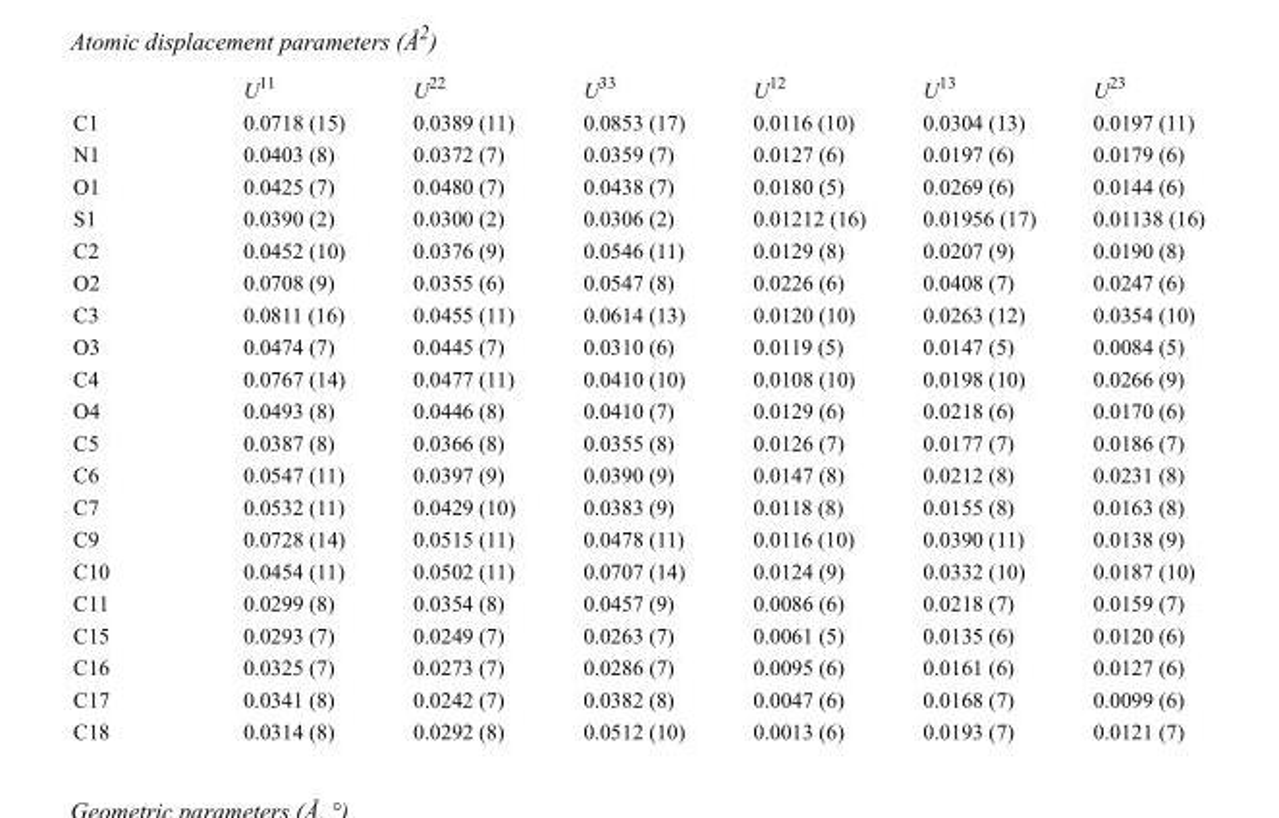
<table><thead><tr><td></td><td>U<sup>11</sup></td><td>U<sup>22</sup></td><td>U<sup>33</sup></td><td>U<sup>12</sup></td><td>U<sup>13</sup></td><td>U<sup>23</sup></td></tr></thead><tbody><tr><td>C1</td><td>0.0718 (15)</td><td>0.0389 (11)</td><td>0.0853 (17)</td><td>0.0116 (10)</td><td>0.0304 (13)</td><td>0.0197 (11)</td></tr><tr><td>N1</td><td>0.0403 (8)</td><td>0.0372 (7)</td><td>0.0359 (7)</td><td>0.0127 (6)</td><td>0.0197 (6)</td><td>0.0179 (6)</td></tr><tr><td>O1</td><td>0.0425 (7)</td><td>0.0480 (7)</td><td>0.0438 (7)</td><td>0.0180 (5)</td><td>0.0269 (6)</td><td>0.0144 (6)</td></tr><tr><td>S1</td><td>0.0390 (2)</td><td>0.0300 (2)</td><td>0.0306 (2)</td><td>0.01212 (16)</td><td>0.01956 (17)</td><td>0.01138 (16)</td></tr><tr><td>C2</td><td>0.0452 (10)</td><td>0.0376 (9)</td><td>0.0546 (11)</td><td>0.0129 (8)</td><td>0.0207 (9)</td><td>0.0190 (8)</td></tr><tr><td>O2</td><td>0.0708 (9)</td><td>0.0355 (6)</td><td>0.0547 (8)</td><td>0.0226 (6)</td><td>0.0408 (7)</td><td>0.0247 (6)</td></tr><tr><td>C3</td><td>0.0811 (16)</td><td>0.0455 (11)</td><td>0.0614 (13)</td><td>0.0120 (10)</td><td>0.0263 (12)</td><td>0.0354 (10)</td></tr><tr><td>O3</td><td>0.0474 (7)</td><td>0.0445 (7)</td><td>0.0310 (6)</td><td>0.0119 (5)</td><td>0.0147 (5)</td><td>0.0084 (5)</td></tr><tr><td>C4</td><td>0.0767 (14)</td><td>0.0477 (11)</td><td>0.0410 (10)</td><td>0.0108 (10)</td><td>0.0198 (10)</td><td>0.0266 (9)</td></tr><tr><td>O4</td><td>0.0493 (8)</td><td>0.0446 (8)</td><td>0.0410 (7)</td><td>0.0129 (6)</td><td>0.0218 (6)</td><td>0.0170 (6)</td></tr><tr><td>C5</td><td>0.0387 (8)</td><td>0.0366 (8)</td><td>0.0355 (8)</td><td>0.0126 (7)</td><td>0.0177 (7)</td><td>0.0186 (7)</td></tr><tr><td>C6</td><td>0.0547 (11)</td><td>0.0397 (9)</td><td>0.0390 (9)</td><td>0.0147 (8)</td><td>0.0212 (8)</td><td>0.0231 (8)</td></tr><tr><td>C7</td><td>0.0532 (11)</td><td>0.0429 (10)</td><td>0.0383 (9)</td><td>0.0118 (8)</td><td>0.0155 (8)</td><td>0.0163 (8)</td></tr><tr><td>C9</td><td>0.0728 (14)</td><td>0.0515 (11)</td><td>0.0478 (11)</td><td>0.0116 (10)</td><td>0.0390 (11)</td><td>0.0138 (9)</td></tr><tr><td>C10</td><td>0.0454 (11)</td><td>0.0502 (11)</td><td>0.0707 (14)</td><td>0.0124 (9)</td><td>0.0332 (10)</td><td>0.0187 (10)</td></tr><tr><td>C11</td><td>0.0299 (8)</td><td>0.0354 (8)</td><td>0.0457 (9)</td><td>0.0086 (6)</td><td>0.0218 (7)</td><td>0.0159 (7)</td></tr><tr><td>C15</td><td>0.0293 (7)</td><td>0.0249 (7)</td><td>0.0263 (7)</td><td>0.0061 (5)</td><td>0.0135 (6)</td><td>0.0120 (6)</td></tr><tr><td>C16</td><td>0.0325 (7)</td><td>0.0273 (7)</td><td>0.0286 (7)</td><td>0.0095 (6)</td><td>0.0161 (6)</td><td>0.0127 (6)</td></tr><tr><td>C17</td><td>0.0341 (8)</td><td>0.0242 (7)</td><td>0.0382 (8)</td><td>0.0047 (6)</td><td>0.0168 (7)</td><td>0.0099 (6)</td></tr><tr><td>C18</td><td>0.0314 (8)</td><td>0.0292 (8)</td><td>0.0512 (10)</td><td>0.0013 (6)</td><td>0.0193 (7)</td><td>0.0121 (7)</td></tr></tbody></table>